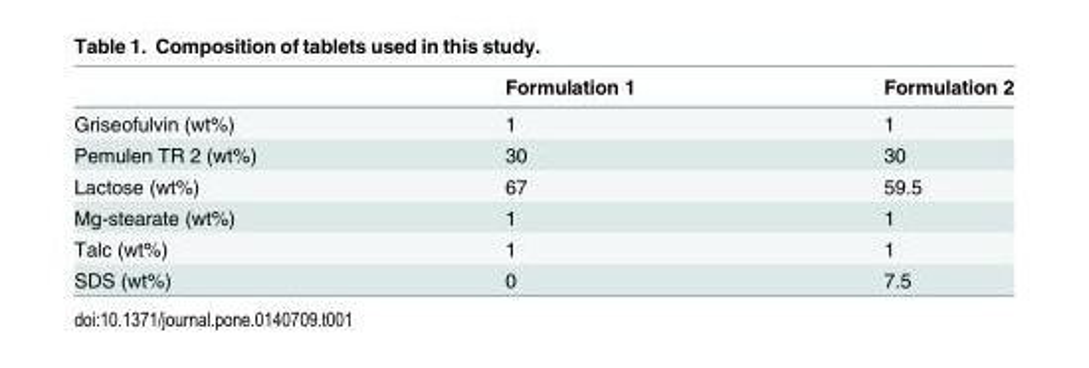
<table><thead><tr><td></td><td>Formulation 1</td><td>Formulation 2</td></tr></thead><tbody><tr><td>Griseofulvin (wt%)</td><td>1</td><td>1</td></tr><tr><td>Pemulen TR 2 (wt%)</td><td>30</td><td>30</td></tr><tr><td>Lactose (wt%)</td><td>67</td><td>59.5</td></tr><tr><td>Mg-stearate (wt%)</td><td>1</td><td>1</td></tr><tr><td>Talc (wt%)</td><td>1</td><td>1</td></tr><tr><td>SDS (wt%)</td><td>0</td><td>7.5</td></tr></tbody></table>